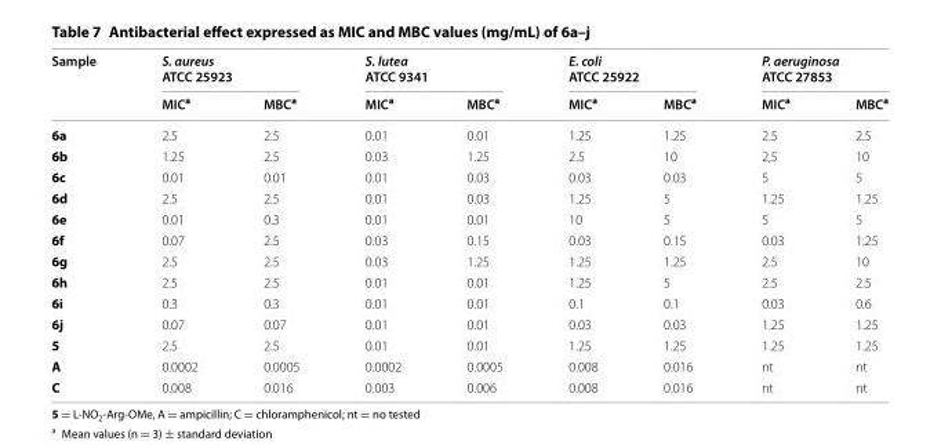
<table><thead><tr><td rowspan="2">Sample</td><td colspan="2">S. aureus ATCC 25923</td><td colspan="2">S. lutea ATCC 9341</td><td colspan="2">E. coli ATCC 25922</td><td colspan="2">P. aeruginosa ATCC 27853</td></tr><tr><td>MIC<sup>a</sup></td><td>MBC<sup>a</sup></td><td>MIC<sup>a</sup></td><td>MBC<sup>a</sup></td><td>MIC<sup>a</sup></td><td>MBC<sup>a</sup></td><td>MIC<sup>a</sup></td><td>MBC<sup>a</sup></td></tr></thead><tbody><tr><td>6a</td><td>2.5</td><td>2.5</td><td>0.01</td><td>0.01</td><td>1.25</td><td>1.25</td><td>2.5</td><td>2.5</td></tr><tr><td>6b</td><td>1.25</td><td>2.5</td><td>0.03</td><td>1.25</td><td>2.5</td><td>10</td><td>2,5</td><td>10</td></tr><tr><td>6c</td><td>0.01</td><td>0.01</td><td>0.01</td><td>0.03</td><td>0.03</td><td>0.03</td><td>5</td><td>5</td></tr><tr><td>6d</td><td>2.5</td><td>2.5</td><td>0.01</td><td>0.03</td><td>1.25</td><td>5</td><td>1.25</td><td>1.25</td></tr><tr><td>6e</td><td>0.01</td><td>0.3</td><td>0.01</td><td>0.01</td><td>10</td><td>5</td><td>5</td><td>5</td></tr><tr><td>6f</td><td>0.07</td><td>2.5</td><td>0.03</td><td>0.15</td><td>0.03</td><td>0.15</td><td>0.03</td><td>1.25</td></tr><tr><td>6g</td><td>2.5</td><td>2.5</td><td>0.03</td><td>1.25</td><td>1.25</td><td>1.25</td><td>2.5</td><td>10</td></tr><tr><td>6h</td><td>2.5</td><td>2.5</td><td>0.01</td><td>0.01</td><td>1.25</td><td>5</td><td>2.5</td><td>2.5</td></tr><tr><td>6i</td><td>0.3</td><td>0.3</td><td>0.01</td><td>0.01</td><td>0.1</td><td>0.1</td><td>0.03</td><td>0.6</td></tr><tr><td>6j</td><td>0.07</td><td>0.07</td><td>0.01</td><td>0.01</td><td>0.03</td><td>0.03</td><td>1.25</td><td>1.25</td></tr><tr><td>5</td><td>2.5</td><td>2.5</td><td>0.01</td><td>0.01</td><td>1.25</td><td>1.25</td><td>1.25</td><td>1.25</td></tr><tr><td>A</td><td>0.0002</td><td>0.0005</td><td>0.0002</td><td>0.0005</td><td>0.008</td><td>0.016</td><td>nt</td><td>nt</td></tr><tr><td>C</td><td>0.008</td><td>0.016</td><td>0.003</td><td>0.006</td><td>0.008</td><td>0.016</td><td>nt</td><td>nt</td></tr></tbody></table>